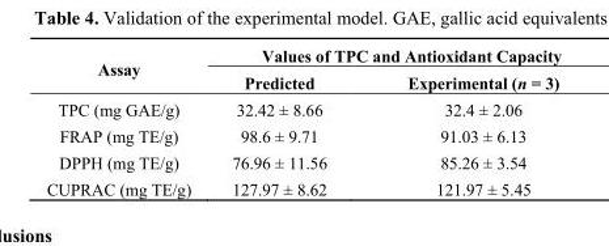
<table><thead><tr><td rowspan="2">Assay</td><td colspan="2">Values of TPC and Antioxidant Capacity</td></tr><tr><td>Predicted</td><td>Experimental (n = 3)</td></tr></thead><tbody><tr><td>TPC (mg GAE/g)</td><td>32.42 ± 8.66</td><td>32.4 ± 2.06</td></tr><tr><td>FRAP (mg TE/g)</td><td>98.6 ± 9.71</td><td>91.03 ± 6.13</td></tr><tr><td>DPPH (mg TE/g)</td><td>76.96 ± 11.56</td><td>85.26 ± 3.54</td></tr><tr><td>CUPRAC (mg TE/g)</td><td>127.97 ± 8.62</td><td>121.97 ± 5.45</td></tr></tbody></table>